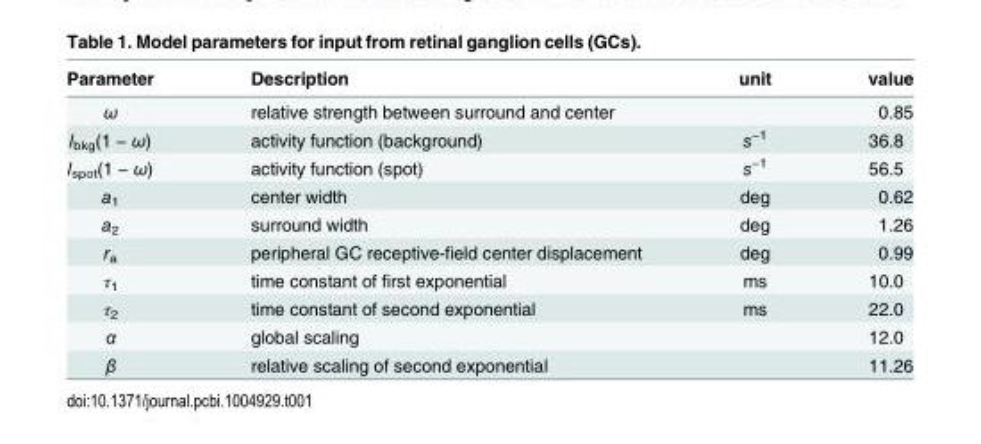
<table><thead><tr><td>Parameter</td><td>Description</td><td>unit</td><td>value</td></tr></thead><tbody><tr><td>ω</td><td>relative strength between surround and center</td><td></td><td>0.85</td></tr><tr><td>l<sub>bkg</sub>(1 − ω)</td><td>activity function (background)</td><td>s<sup>−1</sup></td><td>36.8</td></tr><tr><td>l<sub>spot</sub>(1 − ω)</td><td>activity function (spot)</td><td>s<sup>−1</sup></td><td>56.5</td></tr><tr><td>a<sub>1</sub></td><td>center width</td><td>deg</td><td>0.62</td></tr><tr><td>a<sub>2</sub></td><td>surround width</td><td>deg</td><td>1.26</td></tr><tr><td>r<sub>a</sub></td><td>peripheral GC receptive-field center displacement</td><td>deg</td><td>0.99</td></tr><tr><td>τ<sub>1</sub></td><td>time constant of first exponential</td><td>ms</td><td>10.0</td></tr><tr><td>τ<sub>2</sub></td><td>time constant of second exponential</td><td>ms</td><td>22.0</td></tr><tr><td>α</td><td>global scaling</td><td></td><td>12.0</td></tr><tr><td>β</td><td>relative scaling of second exponential</td><td></td><td>11.26</td></tr></tbody></table>